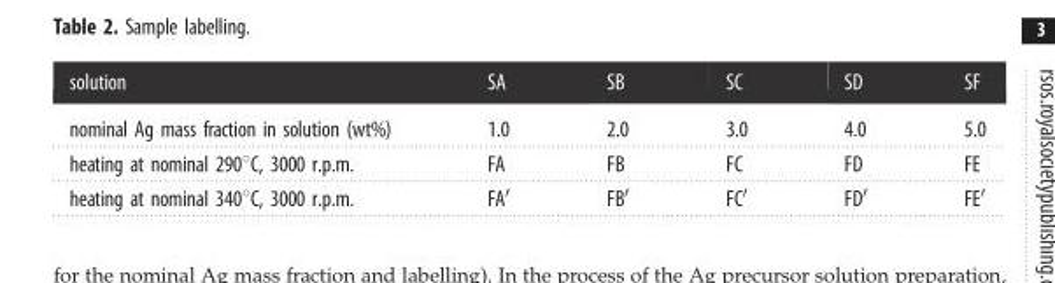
<table><thead><tr><td>solution</td><td>SA</td><td>SB</td><td>SC</td><td>SD</td><td>SF</td></tr></thead><tbody><tr><td>nominal Ag mass fraction in solution (wt%)</td><td>1.0</td><td>2.0</td><td>3.0</td><td>4.0</td><td>5.0</td></tr><tr><td>heating at nominal 290°C, 3000 r.p.m.</td><td>FA</td><td>FB</td><td>FC</td><td>FD</td><td>FE</td></tr><tr><td>heating at nominal 340°C, 3000 r.p.m.</td><td>FA′</td><td>FB′</td><td>FC′</td><td>FD′</td><td>FE′</td></tr></tbody></table>